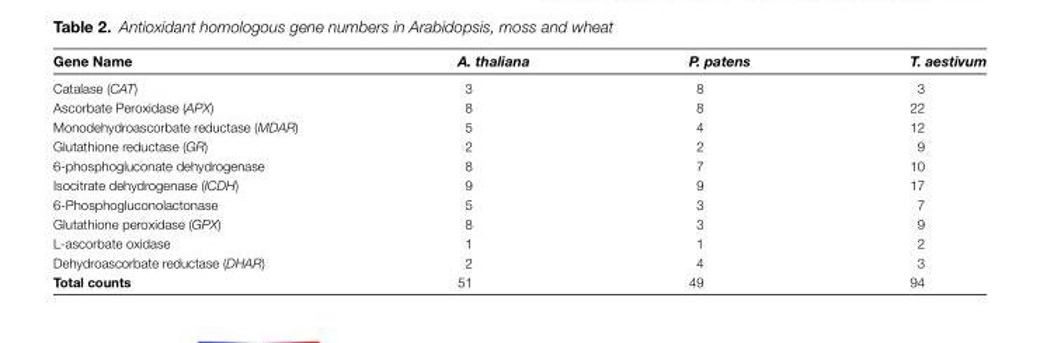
<table><thead><tr><td>Gene Name</td><td>A. thaliana</td><td>P. patens</td><td>T. aestivum</td></tr></thead><tbody><tr><td>Catalase (CAT)</td><td>3</td><td>8</td><td>3</td></tr><tr><td>Ascorbate Peroxidase (APX)</td><td>8</td><td>8</td><td>22</td></tr><tr><td>Monodehydroascorbate reductase (MDAR)</td><td>5</td><td>4</td><td>12</td></tr><tr><td>Glutathione reductase (GR)</td><td>2</td><td>2</td><td>9</td></tr><tr><td>6-phosphogluconate dehydrogenase</td><td>8</td><td>7</td><td>10</td></tr><tr><td>Isocitrate dehydrogenase (ICDH)</td><td>9</td><td>9</td><td>17</td></tr><tr><td>6-Phosphogluconolactonase</td><td>5</td><td>3</td><td>7</td></tr><tr><td>Glutathione peroxidase (GPX)</td><td>8</td><td>3</td><td>9</td></tr><tr><td>L-ascorbate oxidase</td><td>1</td><td>1</td><td>2</td></tr><tr><td>Dehydroascorbate reductase (DHAR)</td><td>2</td><td>4</td><td>3</td></tr><tr><td>Total counts</td><td>51</td><td>49</td><td>94</td></tr></tbody></table>